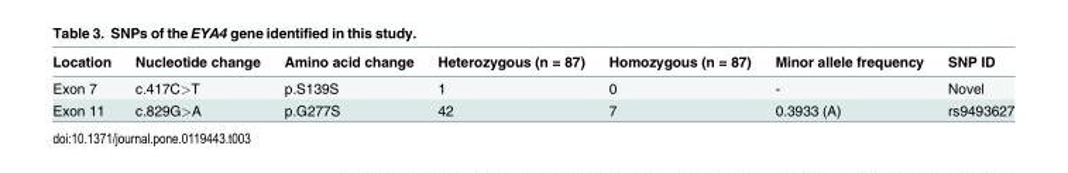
<table><thead><tr><td>Location</td><td>Nucleotide change</td><td>Amino acid change</td><td>Heterozygous (n = 87)</td><td>Homozygous (n = 87)</td><td>Minor allele frequency</td><td>SNP ID</td></tr></thead><tbody><tr><td>Exon 7</td><td>c.417C&gt;T</td><td>p.S139S</td><td>1</td><td>0</td><td>-</td><td>Novel</td></tr><tr><td>Exon 11</td><td>c.829G&gt;A</td><td>p.G277S</td><td>42</td><td>7</td><td>0.3933 (A)</td><td>rs9493627</td></tr></tbody></table>